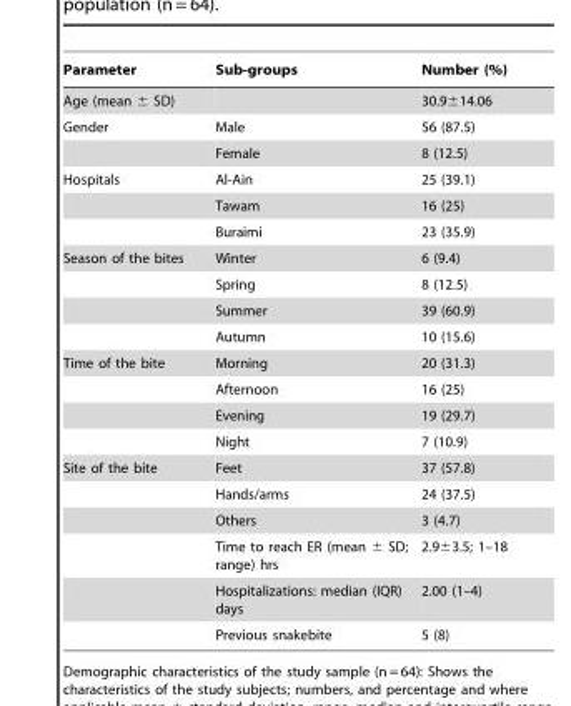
<table><thead><tr><td>Parameter</td><td>Sub-groups</td><td>Number (%)</td></tr></thead><tbody><tr><td>Age (mean ± SD)</td><td></td><td>30.9±14.06</td></tr><tr><td rowspan="2">Gender</td><td>Male</td><td>56 (87.5)</td></tr><tr><td>Female</td><td>8 (12.5)</td></tr><tr><td rowspan="3">Hospitals</td><td>Al-Ain</td><td>25 (39.1)</td></tr><tr><td>Tawam</td><td>16 (25)</td></tr><tr><td>Buraimi</td><td>23 (35.9)</td></tr><tr><td rowspan="4">Season of the bites</td><td>Winter</td><td>6 (9.4)</td></tr><tr><td>Spring</td><td>8 (12.5)</td></tr><tr><td>Summer</td><td>39 (60.9)</td></tr><tr><td>Autumn</td><td>10 (15.6)</td></tr><tr><td rowspan="4">Time of the bite</td><td>Morning</td><td>20 (31.3)</td></tr><tr><td>Afternoon</td><td>16 (25)</td></tr><tr><td>Evening</td><td>19 (29.7)</td></tr><tr><td>Night</td><td>7 (10.9)</td></tr><tr><td rowspan="6">Site of the bite</td><td>Feet</td><td>37 (57.8)</td></tr><tr><td>Hands/arms</td><td>24 (37.5)</td></tr><tr><td>Others</td><td>3 (4.7)</td></tr><tr><td>Time to reach ER (mean ± SD; range) hrs</td><td>2.9±3.5; 1–18</td></tr><tr><td>Hospitalizations: median (IQR) days</td><td>2.00 (1–4)</td></tr><tr><td>Previous snakebite</td><td>5 (8)</td></tr></tbody></table>